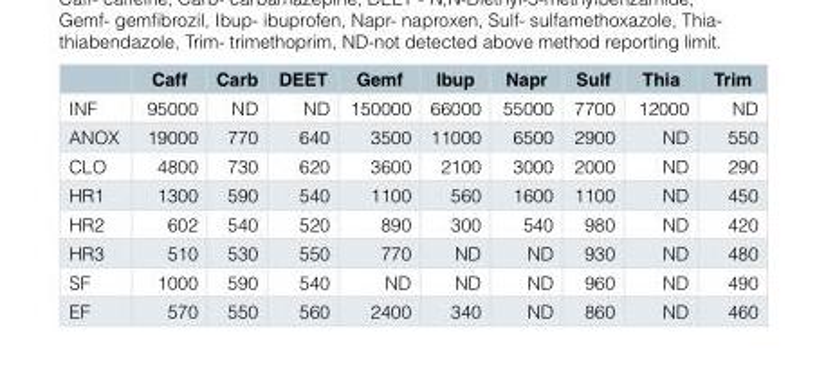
<table><thead><tr><td></td><td>Caff</td><td>Carb</td><td>DEET</td><td>Gemf</td><td>Ibup</td><td>Napr</td><td>Sulf</td><td>Thia</td><td>Trim</td></tr></thead><tbody><tr><td>INF</td><td>95000</td><td>ND</td><td>ND</td><td>150000</td><td>66000</td><td>55000</td><td>7700</td><td>12000</td><td>ND</td></tr><tr><td>ANOX</td><td>19000</td><td>770</td><td>640</td><td>3500</td><td>11000</td><td>6500</td><td>2900</td><td>ND</td><td>550</td></tr><tr><td>CLO</td><td>4800</td><td>730</td><td>620</td><td>3600</td><td>2100</td><td>3000</td><td>2000</td><td>ND</td><td>290</td></tr><tr><td>HR1</td><td>1300</td><td>590</td><td>540</td><td>1100</td><td>560</td><td>1600</td><td>1100</td><td>ND</td><td>450</td></tr><tr><td>HR2</td><td>602</td><td>540</td><td>520</td><td>890</td><td>300</td><td>540</td><td>980</td><td>ND</td><td>420</td></tr><tr><td>HR3</td><td>510</td><td>530</td><td>550</td><td>770</td><td>ND</td><td>ND</td><td>930</td><td>ND</td><td>480</td></tr><tr><td>SF</td><td>1000</td><td>590</td><td>540</td><td>ND</td><td>ND</td><td>ND</td><td>960</td><td>ND</td><td>490</td></tr><tr><td>EF</td><td>570</td><td>550</td><td>560</td><td>2400</td><td>340</td><td>ND</td><td>860</td><td>ND</td><td>460</td></tr></tbody></table>